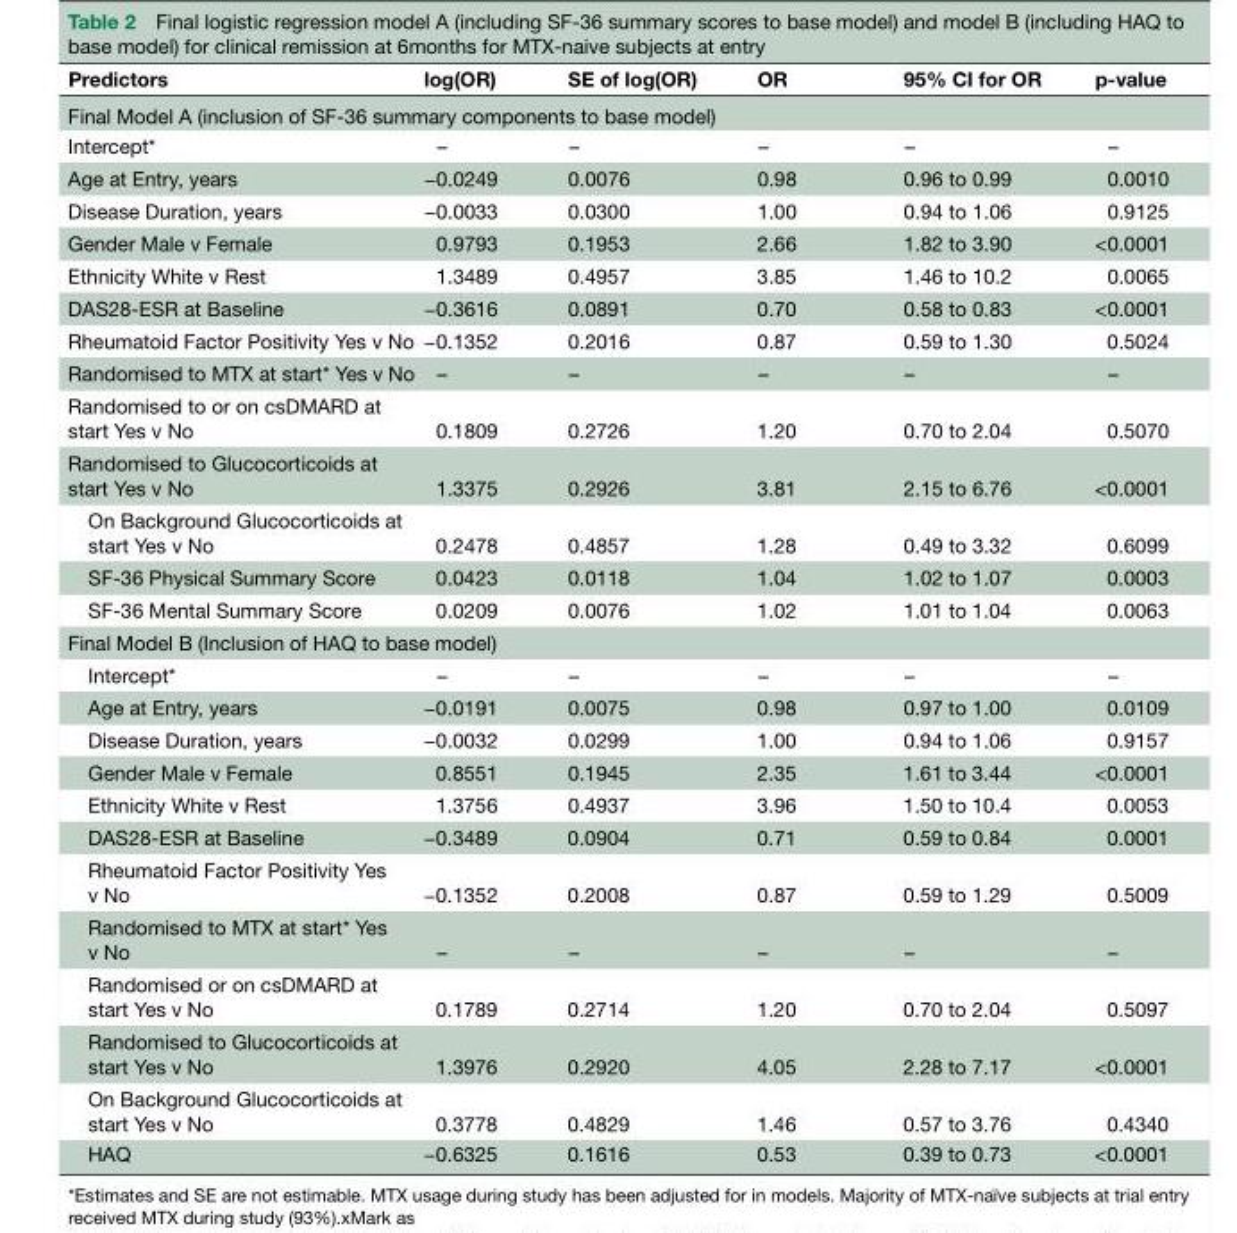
<table><thead><tr><td>Predictors</td><td>log(OR)</td><td>SE of log(OR)</td><td>OR</td><td>95% CI for OR</td><td>p-value</td></tr></thead><tbody><tr><td colspan="6">Final Model A (inclusion of SF-36 summary components to base model)</td></tr><tr><td>Intercept*</td><td>–</td><td>–</td><td>–</td><td>–</td><td>–</td></tr><tr><td>Age at Entry, years</td><td>−0.0249</td><td>0.0076</td><td>0.98</td><td>0.96 to 0.99</td><td>0.0010</td></tr><tr><td>Disease Duration, years</td><td>−0.0033</td><td>0.0300</td><td>1.00</td><td>0.94 to 1.06</td><td>0.9125</td></tr><tr><td>Gender Male v Female</td><td>0.9793</td><td>0.1953</td><td>2.66</td><td>1.82 to 3.90</td><td>&lt;0.0001</td></tr><tr><td>Ethnicity White v Rest</td><td>1.3489</td><td>0.4957</td><td>3.85</td><td>1.46 to 10.2</td><td>0.0065</td></tr><tr><td>DAS28-ESR at Baseline</td><td>−0.3616</td><td>0.0891</td><td>0.70</td><td>0.58 to 0.83</td><td>&lt;0.0001</td></tr><tr><td>Rheumatoid Factor Positivity Yes v No</td><td>−0.1352</td><td>0.2016</td><td>0.87</td><td>0.59 to 1.30</td><td>0.5024</td></tr><tr><td>Randomised to MTX at start* Yes v No</td><td>–</td><td>–</td><td>–</td><td>–</td><td>–</td></tr><tr><td>Randomised to or on csDMARD at start Yes v No</td><td>0.1809</td><td>0.2726</td><td>1.20</td><td>0.70 to 2.04</td><td>0.5070</td></tr><tr><td>Randomised to Glucocorticoids at start Yes v No</td><td>1.3375</td><td>0.2926</td><td>3.81</td><td>2.15 to 6.76</td><td>&lt;0.0001</td></tr><tr><td>On Background Glucocorticoids at start Yes v No</td><td>0.2478</td><td>0.4857</td><td>1.28</td><td>0.49 to 3.32</td><td>0.6099</td></tr><tr><td>SF-36 Physical Summary Score</td><td>0.0423</td><td>0.0118</td><td>1.04</td><td>1.02 to 1.07</td><td>0.0003</td></tr><tr><td>SF-36 Mental Summary Score</td><td>0.0209</td><td>0.0076</td><td>1.02</td><td>1.01 to 1.04</td><td>0.0063</td></tr><tr><td colspan="6">Final Model B (Inclusion of HAQ to base model)</td></tr><tr><td>Intercept*</td><td>–</td><td>–</td><td>–</td><td>–</td><td>–</td></tr><tr><td>Age at Entry, years</td><td>−0.0191</td><td>0.0075</td><td>0.98</td><td>0.97 to 1.00</td><td>0.0109</td></tr><tr><td>Disease Duration, years</td><td>−0.0032</td><td>0.0299</td><td>1.00</td><td>0.94 to 1.06</td><td>0.9157</td></tr><tr><td>Gender Male v Female</td><td>0.8551</td><td>0.1945</td><td>2.35</td><td>1.61 to 3.44</td><td>&lt;0.0001</td></tr><tr><td>Ethnicity White v Rest</td><td>1.3756</td><td>0.4937</td><td>3.96</td><td>1.50 to 10.4</td><td>0.0053</td></tr><tr><td>DAS28-ESR at Baseline</td><td>−0.3489</td><td>0.0904</td><td>0.71</td><td>0.59 to 0.84</td><td>0.0001</td></tr><tr><td>Rheumatoid Factor Positivity Yes v No</td><td>−0.1352</td><td>0.2008</td><td>0.87</td><td>0.59 to 1.29</td><td>0.5009</td></tr><tr><td>Randomised to MTX at start* Yes v No</td><td>–</td><td>–</td><td>–</td><td>–</td><td>–</td></tr><tr><td>Randomised or on csDMARD at start Yes v No</td><td>0.1789</td><td>0.2714</td><td>1.20</td><td>0.70 to 2.04</td><td>0.5097</td></tr><tr><td>Randomised to Glucocorticoids at start Yes v No</td><td>1.3976</td><td>0.2920</td><td>4.05</td><td>2.28 to 7.17</td><td>&lt;0.0001</td></tr><tr><td>On Background Glucocorticoids at start Yes v No</td><td>0.3778</td><td>0.4829</td><td>1.46</td><td>0.57 to 3.76</td><td>0.4340</td></tr><tr><td>HAQ</td><td>−0.6325</td><td>0.1616</td><td>0.53</td><td>0.39 to 0.73</td><td>&lt;0.0001</td></tr></tbody></table>